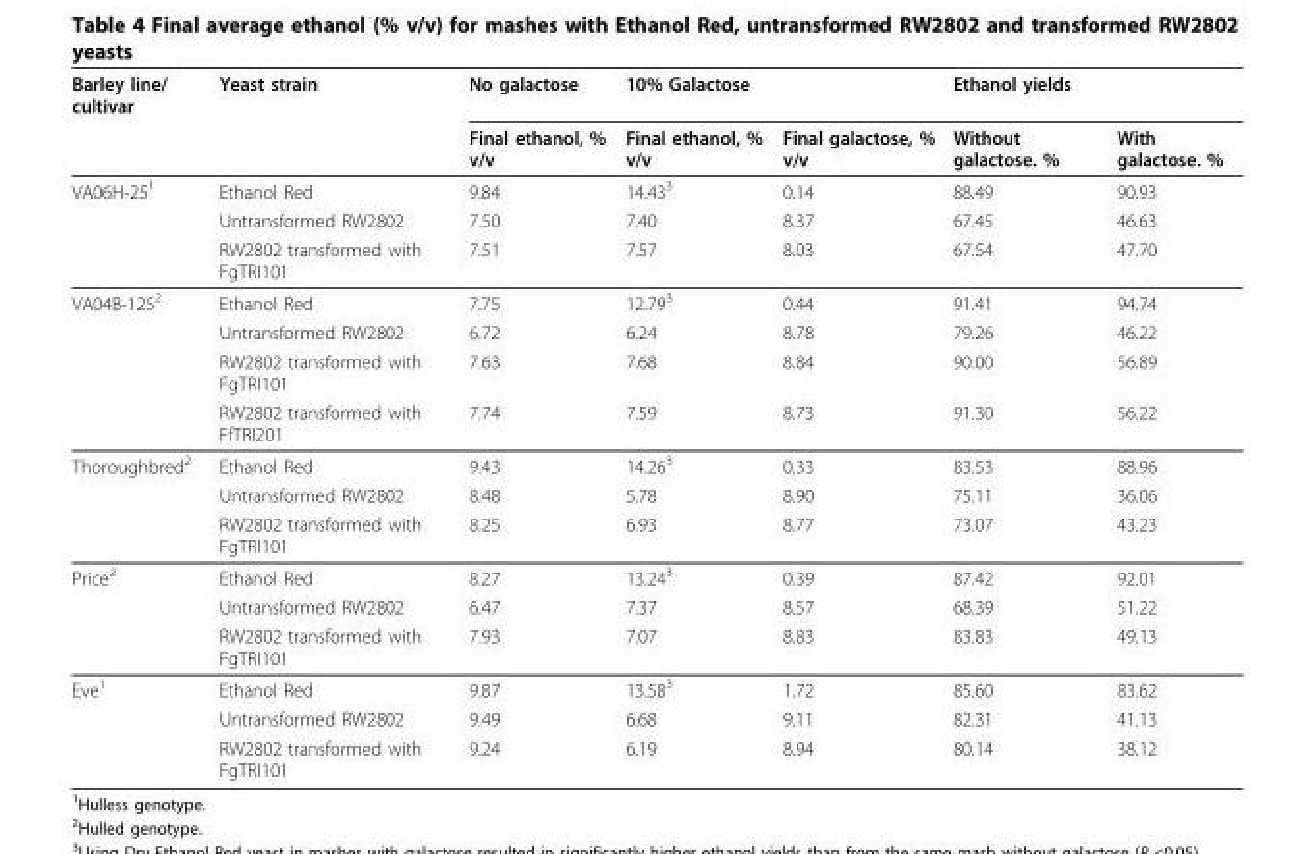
<table><thead><tr><td rowspan="2">Barley line/ cultivar</td><td rowspan="2">Yeast strain</td><td rowspan="2">No galactose Final ethanol, % v/v</td><td colspan="2">10% Galactose</td><td colspan="2">Ethanol yields</td></tr><tr><td>Final ethanol, % v/v</td><td>Final galactose, % v/v</td><td>Without galactose. %</td><td>With galactose. %</td></tr></thead><tbody><tr><td rowspan="3">VA06H-25<sup>1</sup></td><td>Ethanol Red</td><td>9.84</td><td>14.43<sup>3</sup></td><td>0.14</td><td>88.49</td><td>90.93</td></tr><tr><td>Untransformed RW2802</td><td>7.50</td><td>7.40</td><td>8.37</td><td>67.45</td><td>46.63</td></tr><tr><td>RW2802 transformed with FgTRI101</td><td>7.51</td><td>7.57</td><td>8.03</td><td>67.54</td><td>47.70</td></tr><tr><td rowspan="4">VA04B-125<sup>2</sup></td><td>Ethanol Red</td><td>7.75</td><td>12.79<sup>3</sup></td><td>0.44</td><td>91.41</td><td>94.74</td></tr><tr><td>Untransformed RW2802</td><td>6.72</td><td>6.24</td><td>8.78</td><td>79.26</td><td>46.22</td></tr><tr><td>RW2802 transformed with FgTRI101</td><td>7.63</td><td>7.68</td><td>8.84</td><td>90.00</td><td>56.89</td></tr><tr><td>RW2802 transformed with FfTRI201</td><td>7.74</td><td>7.59</td><td>8.73</td><td>91.30</td><td>56.22</td></tr><tr><td rowspan="3">Thoroughbred<sup>2</sup></td><td>Ethanol Red</td><td>9.43</td><td>14.26<sup>3</sup></td><td>0.33</td><td>83.53</td><td>88.96</td></tr><tr><td>Untransformed RW2802</td><td>8.48</td><td>5.78</td><td>8.90</td><td>75.11</td><td>36.06</td></tr><tr><td>RW2802 transformed with FgTRI101</td><td>8.25</td><td>6.93</td><td>8.77</td><td>73.07</td><td>43.23</td></tr><tr><td rowspan="3">Price<sup>2</sup></td><td>Ethanol Red</td><td>8.27</td><td>13.24<sup>3</sup></td><td>0.39</td><td>87.42</td><td>92.01</td></tr><tr><td>Untransformed RW2802</td><td>6.47</td><td>7.37</td><td>8.57</td><td>68.39</td><td>51.22</td></tr><tr><td>RW2802 transformed with FgTRI101</td><td>7.93</td><td>7.07</td><td>8.83</td><td>83.83</td><td>49.13</td></tr><tr><td rowspan="3">Eve<sup>1</sup></td><td>Ethanol Red</td><td>9.87</td><td>13.58<sup>3</sup></td><td>1.72</td><td>85.60</td><td>83.62</td></tr><tr><td>Untransformed RW2802</td><td>9.49</td><td>6.68</td><td>9.11</td><td>82.31</td><td>41.13</td></tr><tr><td>RW2802 transformed with FgTRI101</td><td>9.24</td><td>6.19</td><td>8.94</td><td>80.14</td><td>38.12</td></tr></tbody></table>